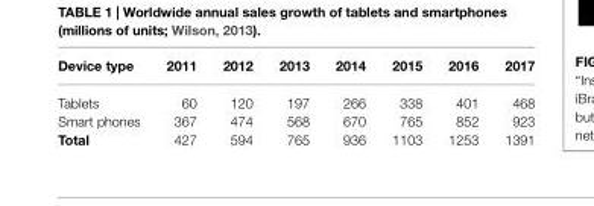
<table><thead><tr><td>Device type</td><td>2011</td><td>2012</td><td>2013</td><td>2014</td><td>2015</td><td>2016</td><td>2017</td></tr></thead><tbody><tr><td>Tablets</td><td>60</td><td>120</td><td>197</td><td>266</td><td>338</td><td>401</td><td>468</td></tr><tr><td>Smart phones</td><td>367</td><td>474</td><td>568</td><td>670</td><td>765</td><td>852</td><td>923</td></tr><tr><td>Total</td><td>427</td><td>594</td><td>765</td><td>936</td><td>1103</td><td>1253</td><td>1391</td></tr></tbody></table>